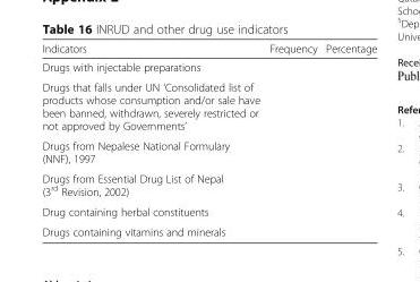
<table><thead><tr><td>Indicators</td><td>Frequency</td><td>Percentage</td></tr></thead><tbody><tr><td colspan="3">Drugs with injectable preparations</td></tr><tr><td colspan="3">Drugs that falls under UN ‘Consolidated list of products whose consumption and/or sale have been banned, withdrawn, severely restricted or not approved by Governments’</td></tr><tr><td colspan="3">Drugs from Nepalese National Formulary (NNF), 1997</td></tr><tr><td colspan="3">Drugs from Essential Drug List of Nepal (3<sup>rd</sup> Revision, 2002)</td></tr><tr><td colspan="3">Drug containing herbal constituents</td></tr><tr><td>Drugs containing vitamins and minerals</td><td></td><td></td></tr></tbody></table>